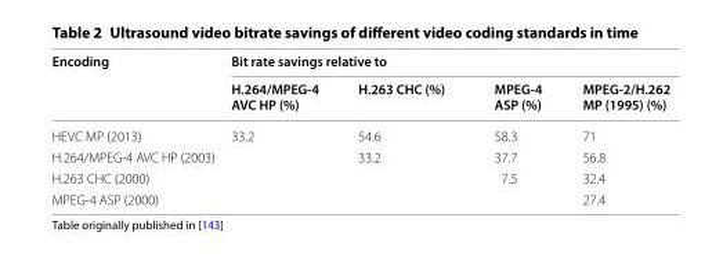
<table><thead><tr><td rowspan="2">Encoding</td><td colspan="4">Bit rate savings relative to</td></tr><tr><td>H.264/MPEG-4 AVC HP (%)</td><td>H.263 CHC (%)</td><td>MPEG-4 ASP (%)</td><td>MPEG-2/H.262 MP (1995) (%)</td></tr></thead><tbody><tr><td>HEVC MP (2013)</td><td>33.2</td><td>54.6</td><td>58.3</td><td>71</td></tr><tr><td>H.264/MPEG-4 AVC HP (2003)</td><td></td><td>33.2</td><td>37.7</td><td>56.8</td></tr><tr><td>H.263 CHC (2000)</td><td></td><td></td><td>7.5</td><td>32.4</td></tr><tr><td>MPEG-4 ASP (2000)</td><td></td><td></td><td></td><td>27.4</td></tr></tbody></table>